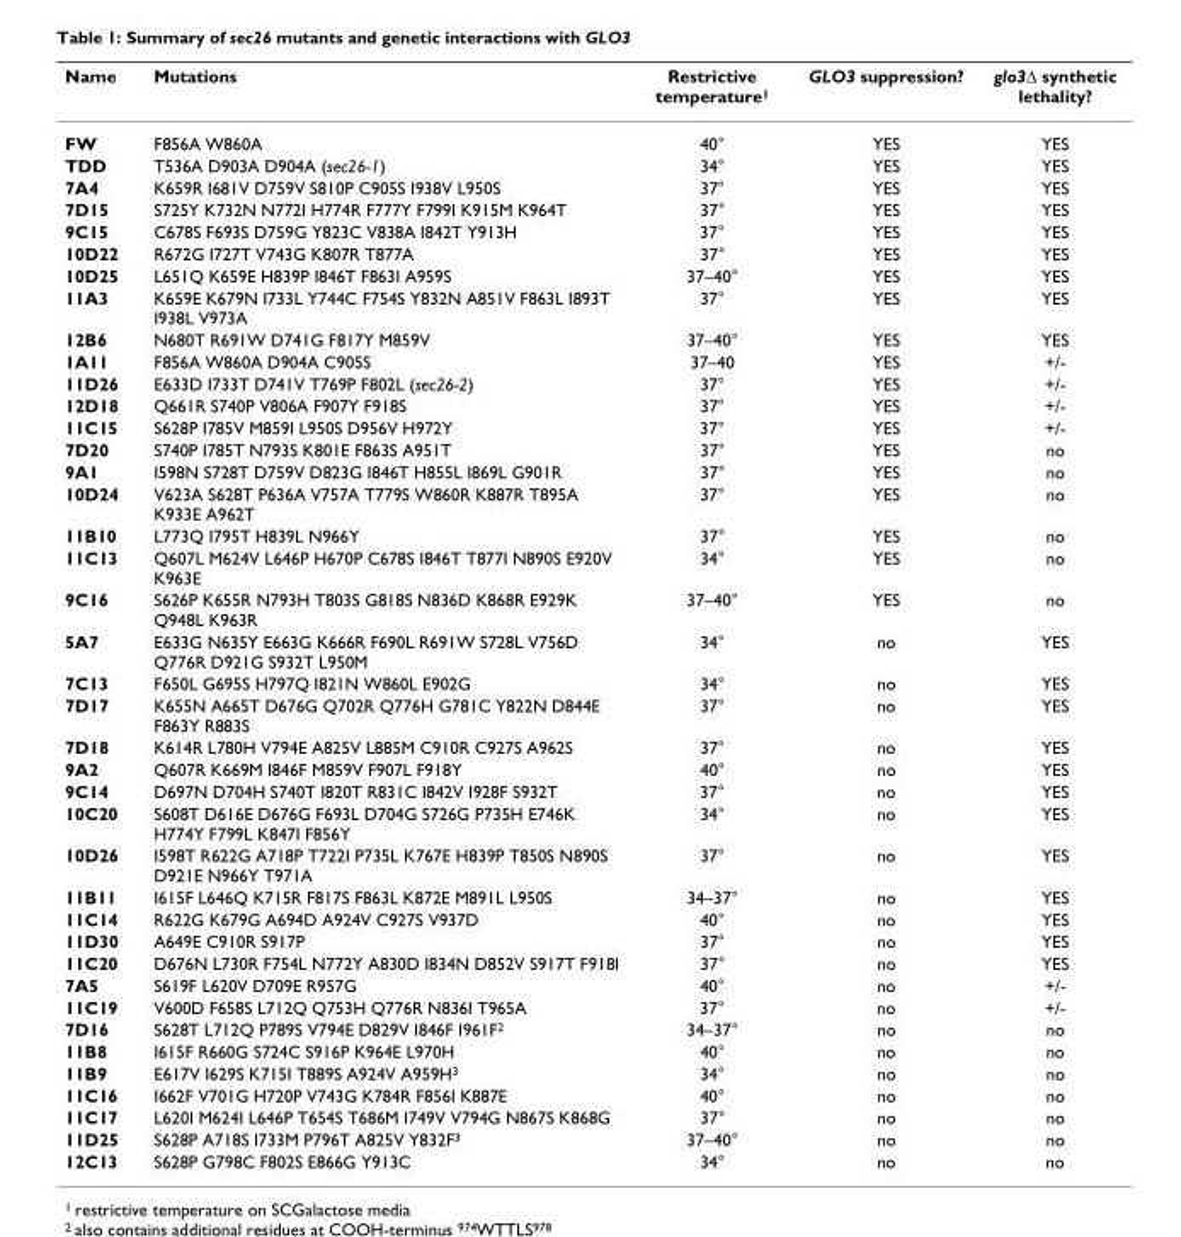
<table><thead><tr><td>Name</td><td>Mutations</td><td>Restrictive temperature<sup>1</sup></td><td>GLO3 suppression?</td><td>glo3Δ synthetic lethality?</td></tr></thead><tbody><tr><td>FW</td><td>F856A W860A</td><td>40°</td><td>YES</td><td>YES</td></tr><tr><td>TDD</td><td>T536A D903A D904A (sec26-1)</td><td>34°</td><td>YES</td><td>YES</td></tr><tr><td>7A4</td><td>K659R I681V D759V S810P C905S I938V L950S</td><td>37°</td><td>YES</td><td>YES</td></tr><tr><td>7D15</td><td>S725Y K732N N772I H774R F777Y F799I K915M K964T</td><td>37°</td><td>YES</td><td>YES</td></tr><tr><td>9C15</td><td>C678S F693S D759G Y823C V838A I842T Y913H</td><td>37°</td><td>YES</td><td>YES</td></tr><tr><td>10D22</td><td>R672G I727T V743G K807R T877A</td><td>37°</td><td>YES</td><td>YES</td></tr><tr><td>10D25</td><td>L651Q K659E H839P I846T F863I A959S</td><td>37–40°</td><td>YES</td><td>YES</td></tr><tr><td>11A3</td><td>K659E K679N I733L Y744C F754S Y832N A851V F863L I893T I938L V973A</td><td>37°</td><td>YES</td><td>YES</td></tr><tr><td>12B6</td><td>N680T R691W D741G F817Y M859V</td><td>37–40°</td><td>YES</td><td>YES</td></tr><tr><td>1A11</td><td>F856A W860A D904A C905S</td><td>37–40</td><td>YES</td><td>+/-</td></tr><tr><td>11D26</td><td>E633D I733T D741V T769P F802L (sec26-2)</td><td>37°</td><td>YES</td><td>+/-</td></tr><tr><td>12D18</td><td>Q661R S740P V806A F907Y F918S</td><td>37°</td><td>YES</td><td>+/-</td></tr><tr><td>11C15</td><td>S628P I785V M859I L950S D956V H972Y</td><td>37°</td><td>YES</td><td>+/-</td></tr><tr><td>7D20</td><td>S740P I785T N793S K801E F863S A951T</td><td>37°</td><td>YES</td><td>no</td></tr><tr><td>9A1</td><td>I598N S728T D759V D823G I846T H855L I869L G901R</td><td>37°</td><td>YES</td><td>no</td></tr><tr><td>10D24</td><td>V623A S628T P636A V757A T779S W860R K887R T895A K933E A962T</td><td>37°</td><td>YES</td><td>no</td></tr><tr><td>11B10</td><td>L773Q I795T H839L N966Y</td><td>37°</td><td>YES</td><td>no</td></tr><tr><td>11C13</td><td>Q607L M624V L646P H670P C678S I846T T877I N890S E920V K963E</td><td>34°</td><td>YES</td><td>no</td></tr><tr><td>9C16</td><td>S626P K655R N793H T803S G818S N836D K868R E929K Q948L K963R</td><td>37–40°</td><td>YES</td><td>no</td></tr><tr><td>5A7</td><td>E633G N635Y E663G K666R F690L R691W S728L V756D Q776R D921G S932T L950M</td><td>34°</td><td>no</td><td>YES</td></tr><tr><td>7C13</td><td>F650L G695S H797Q I821N W860L E902G</td><td>34°</td><td>no</td><td>YES</td></tr><tr><td>7D17</td><td>K655N A665T D676G Q702R Q776H G781C Y822N D844E F863Y R883S</td><td>37°</td><td>no</td><td>YES</td></tr><tr><td>7D18</td><td>K614R L780H V794E A825V L885M C910R C927S A962S</td><td>37°</td><td>no</td><td>YES</td></tr><tr><td>9A2</td><td>Q607R K669M I846F M859V F907L F918Y</td><td>40°</td><td>no</td><td>YES</td></tr><tr><td>9C14</td><td>D697N D704H S740T I820T R831C I842V I928F S932T</td><td>37°</td><td>no</td><td>YES</td></tr><tr><td>10C20</td><td>S608T D616E D676G F693L D704G S726G P735H E746K H774Y F799L K847I F856Y</td><td>34°</td><td>no</td><td>YES</td></tr><tr><td>10D26</td><td>I598T R622G A718P T722I P735L K767E H839P T850S N890S D921E N966Y T971A</td><td>37°</td><td>no</td><td>YES</td></tr><tr><td>11B11</td><td>I615F L646Q K715R F817S F863L K872E M891L L950S</td><td>34–37°</td><td>no</td><td>YES</td></tr><tr><td>11C14</td><td>R622G K679G A694D A924V C927S V937D</td><td>40°</td><td>no</td><td>YES</td></tr><tr><td>11D30</td><td>A649E C910R S917P</td><td>37°</td><td>no</td><td>YES</td></tr><tr><td>11C20</td><td>D676N L730R F754L N772Y A830D I834N D852V S917T F918I</td><td>37°</td><td>no</td><td>YES</td></tr><tr><td>7A5</td><td>S619F L620V D709E R957G</td><td>40°</td><td>no</td><td>+/-</td></tr><tr><td>11C19</td><td>V600D F658S L712Q Q753H Q776R N836I T965A</td><td>37°</td><td>no</td><td>+/-</td></tr><tr><td>7D16</td><td>S628T L712Q P789S V794E D829V I846F I961F<sup>2</sup></td><td>34–37°</td><td>no</td><td>no</td></tr><tr><td>11B8</td><td>I615F R660G S724C S916P K964E L970H</td><td>40°</td><td>no</td><td>no</td></tr><tr><td>11B9</td><td>E617V I629S K715I T889S A924V A959H<sup>3</sup></td><td>34°</td><td>no</td><td>no</td></tr><tr><td>11C16</td><td>I662F V701G H720P V743G K784R F856I K887E</td><td>40°</td><td>no</td><td>no</td></tr><tr><td>11C17</td><td>L620I M624I L646P T654S T686M I749V V794G N867S K868G</td><td>37°</td><td>no</td><td>no</td></tr><tr><td>11D25</td><td>S628P A718S I733M P796T A825V Y832F<sup>3</sup></td><td>37–40°</td><td>no</td><td>no</td></tr><tr><td>12C13</td><td>S628P G798C F802S E866G Y913C</td><td>34°</td><td>no</td><td>no</td></tr></tbody></table>